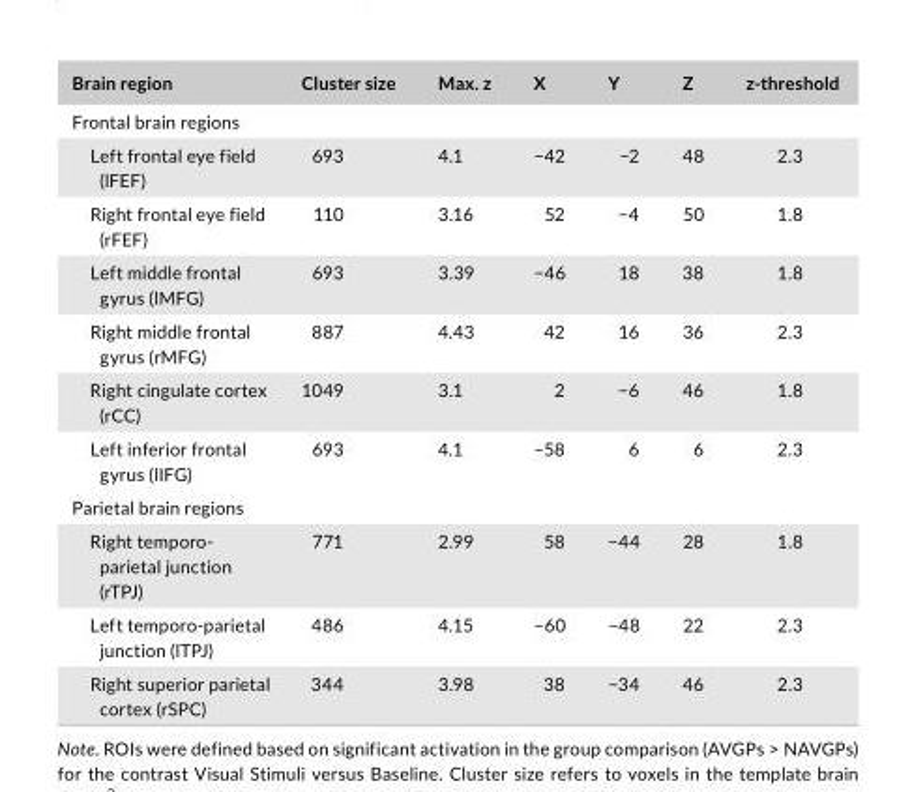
<table><thead><tr><td>Brain region</td><td>Cluster size</td><td>Max. z</td><td>X</td><td>Y</td><td>Z</td><td>z- threshold</td></tr></thead><tbody><tr><td colspan="7">Frontal brain regions</td></tr><tr><td>Left frontal eye field (lFEF)</td><td>693</td><td>4.1</td><td>−42</td><td>−2</td><td>48</td><td>2.3</td></tr><tr><td>Right frontal eye field (rFEF)</td><td>110</td><td>3.16</td><td>52</td><td>−4</td><td>50</td><td>1.8</td></tr><tr><td>Left middle frontal gyrus (lMFG)</td><td>693</td><td>3.39</td><td>−46</td><td>18</td><td>38</td><td>1.8</td></tr><tr><td>Right middle frontal gyrus (rMFG)</td><td>887</td><td>4.43</td><td>42</td><td>16</td><td>36</td><td>2.3</td></tr><tr><td>Right cingulate cortex (rCC)</td><td>1049</td><td>3.1</td><td>2</td><td>−6</td><td>46</td><td>1.8</td></tr><tr><td>Left inferior frontal gyrus (lIFG)</td><td>693</td><td>4.1</td><td>−58</td><td>6</td><td>6</td><td>2.3</td></tr><tr><td colspan="7">Parietal brain regions</td></tr><tr><td>Right temporo- parietal junction (rTPJ)</td><td>771</td><td>2.99</td><td>58</td><td>−44</td><td>28</td><td>1.8</td></tr><tr><td>Left temporo- parietal junction (lTPJ)</td><td>486</td><td>4.15</td><td>−60</td><td>−48</td><td>22</td><td>2.3</td></tr><tr><td>Right superior parietal cortex (rSPC)</td><td>344</td><td>3.98</td><td>38</td><td>−34</td><td>46</td><td>2.3</td></tr></tbody></table>